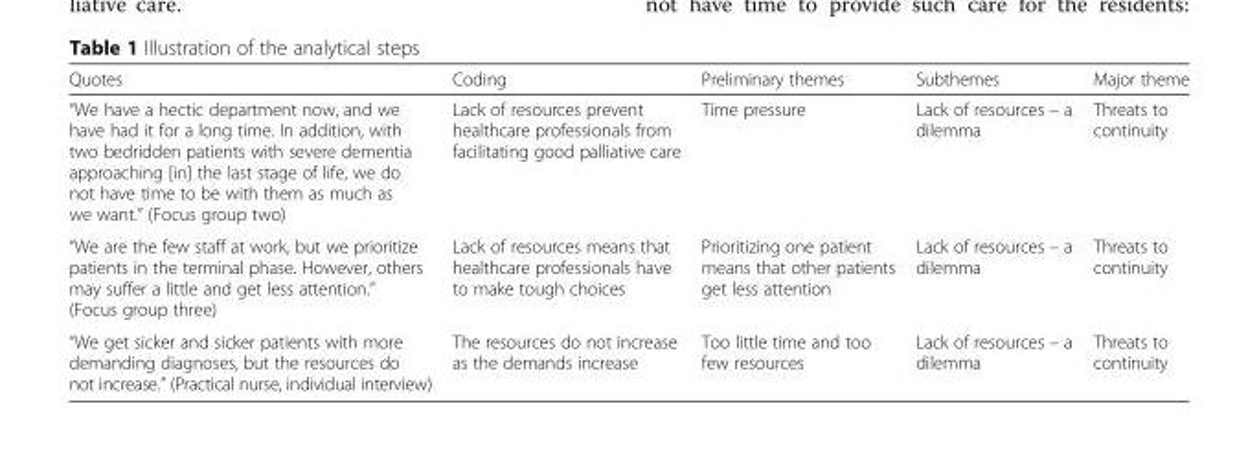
<table><thead><tr><td>Quotes</td><td>Coding</td><td>Preliminary themes</td><td>Subthemes</td><td>Major theme</td></tr></thead><tbody><tr><td>“We have a hectic department now, and we have had it for a long time. In addition, with two bedridden patients with severe dementia approaching [in] the last stage of life, we do not have time to be with them as much as we want.” (Focus group two)</td><td>Lack of resources prevent healthcare professionals from facilitating good palliative care</td><td>Time pressure</td><td>Lack of resources – a dilemma</td><td>Threats to continuity</td></tr><tr><td>“We are the few staff at work, but we prioritize patients in the terminal phase. However, others may suffer a little and get less attention.” (Focus group three)</td><td>Lack of resources means that healthcare professionals have to make tough choices</td><td>Prioritizing one patient means that other patients get less attention</td><td>Lack of resources – a dilemma</td><td>Threats to continuity</td></tr><tr><td>“We get sicker and sicker patients with more demanding diagnoses, but the resources do not increase.” (Practical nurse, individual interview)</td><td>The resources do not increase as the demands increase</td><td>Too little time and too few resources</td><td>Lack of resources – a dilemma</td><td>Threats to continuity</td></tr></tbody></table>